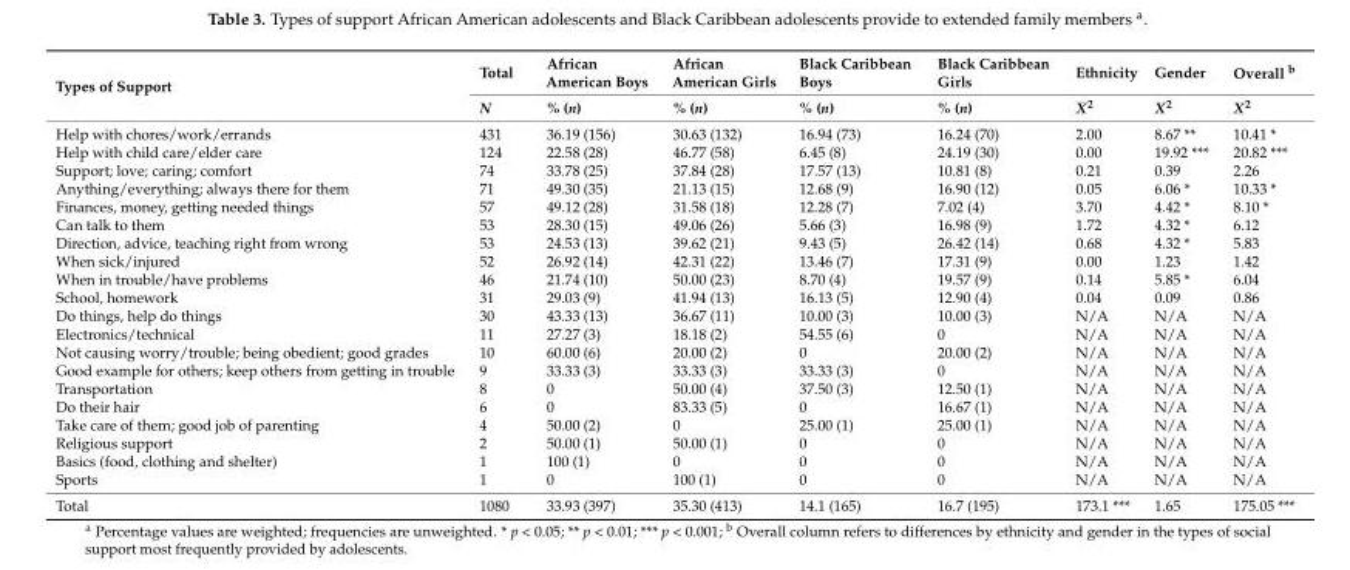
<table><thead><tr><td rowspan="2">Types of Support</td><td rowspan="2">Total N</td><td rowspan="2">African American Boys % (n)</td><td rowspan="2">African American Girls % (n)</td><td rowspan="2">Black Caribbean Boys % (n)</td><td rowspan="2">Black Caribbean Girls % (n)</td><td rowspan="2">Ethnicity X<sup>2</sup></td><td rowspan="2">Gender X<sup>2</sup></td><td rowspan="2">Overall <sup>b</sup> X<sup>2</sup></td></tr><tr></tr></thead><tbody><tr><td>Help with chores/work/errands</td><td>431</td><td>36.19 (156)</td><td>30.63 (132)</td><td>16.94 (73)</td><td>16.24 (70)</td><td>2.00</td><td>8.67 **</td><td>10.41 *</td></tr><tr><td>Help with child care/elder care</td><td>124</td><td>22.58 (28)</td><td>46.77 (58)</td><td>6.45 (8)</td><td>24.19 (30)</td><td>0.00</td><td>19.92 ***</td><td>20.82 ***</td></tr><tr><td>Support; love; caring; comfort</td><td>74</td><td>33.78 (25)</td><td>37.84 (28)</td><td>17.57 (13)</td><td>10.81 (8)</td><td>0.21</td><td>0.39</td><td>2.26</td></tr><tr><td>Anything/everything; always there for them</td><td>71</td><td>49.30 (35)</td><td>21.13 (15)</td><td>12.68 (9)</td><td>16.90 (12)</td><td>0.05</td><td>6.06 *</td><td>10.33 *</td></tr><tr><td>Finances, money, getting needed things</td><td>57</td><td>49.12 (28)</td><td>31.58 (18)</td><td>12.28 (7)</td><td>7.02 (4)</td><td>3.70</td><td>4.42 *</td><td>8.10 *</td></tr><tr><td>Can talk to them</td><td>53</td><td>28.30 (15)</td><td>49.06 (26)</td><td>5.66 (3)</td><td>16.98 (9)</td><td>1.72</td><td>4.32 *</td><td>6.12</td></tr><tr><td>Direction, advice, teaching right from wrong</td><td>53</td><td>24.53 (13)</td><td>39.62 (21)</td><td>9.43 (5)</td><td>26.42 (14)</td><td>0.68</td><td>4.32 *</td><td>5.83</td></tr><tr><td>When sick/injured</td><td>52</td><td>26.92 (14)</td><td>42.31 (22)</td><td>13.46 (7)</td><td>17.31 (9)</td><td>0.00</td><td>1.23</td><td>1.42</td></tr><tr><td>When in trouble/have problems</td><td>46</td><td>21.74 (10)</td><td>50.00 (23)</td><td>8.70 (4)</td><td>19.57 (9)</td><td>0.14</td><td>5.85 *</td><td>6.04</td></tr><tr><td>School, homework</td><td>31</td><td>29.03 (9)</td><td>41.94 (13)</td><td>16.13 (5)</td><td>12.90 (4)</td><td>0.04</td><td>0.09</td><td>0.86</td></tr><tr><td>Do things, help do things</td><td>30</td><td>43.33 (13)</td><td>36.67 (11)</td><td>10.00 (3)</td><td>10.00 (3)</td><td>N/A</td><td>N/A</td><td>N/A</td></tr><tr><td>Electronics/technical</td><td>11</td><td>27.27 (3)</td><td>18.18 (2)</td><td>54.55 (6)</td><td>0</td><td>N/A</td><td>N/A</td><td>N/A</td></tr><tr><td>Not causing worry/trouble; being obedient; good grades</td><td>10</td><td>60.00 (6)</td><td>20.00 (2)</td><td>0</td><td>20.00 (2)</td><td>N/A</td><td>N/A</td><td>N/A</td></tr><tr><td>Good example for others; keep others from getting in trouble</td><td>9</td><td>33.33 (3)</td><td>33.33 (3)</td><td>33.33 (3)</td><td>0</td><td>N/A</td><td>N/A</td><td>N/A</td></tr><tr><td>Transportation</td><td>8</td><td>0</td><td>50.00 (4)</td><td>37.50 (3)</td><td>12.50 (1)</td><td>N/A</td><td>N/A</td><td>N/A</td></tr><tr><td>Do their hair</td><td>6</td><td>0</td><td>83.33 (5)</td><td>0</td><td>16.67 (1)</td><td>N/A</td><td>N/A</td><td>N/A</td></tr><tr><td>Take care of them; good job of parenting</td><td>4</td><td>50.00 (2)</td><td>0</td><td>25.00 (1)</td><td>25.00 (1)</td><td>N/A</td><td>N/A</td><td>N/A</td></tr><tr><td>Religious support</td><td>2</td><td>50.00 (1)</td><td>50.00 (1)</td><td>0</td><td>0</td><td>N/A</td><td>N/A</td><td>N/A</td></tr><tr><td>Basics (food, clothing and shelter)</td><td>1</td><td>100 (1)</td><td>0</td><td>0</td><td>0</td><td>N/A</td><td>N/A</td><td>N/A</td></tr><tr><td>Sports</td><td>1</td><td>0</td><td>100 (1)</td><td>0</td><td>0</td><td>N/A</td><td>N/A</td><td>N/A</td></tr><tr><td>Total</td><td>1080</td><td>33.93 (397)</td><td>35.30 (413)</td><td>14.1 (165)</td><td>16.7 (195)</td><td>173.1 ***</td><td>1.65</td><td>175.05 ***</td></tr></tbody></table>